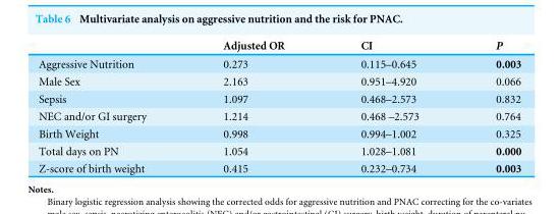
<table><thead><tr><td></td><td>Adjusted OR</td><td>CI</td><td>P</td></tr></thead><tbody><tr><td>Aggressive Nutrition</td><td>0.273</td><td>0.115–0.645</td><td>0.003</td></tr><tr><td>Male Sex</td><td>2.163</td><td>0.951–4.920</td><td>0.066</td></tr><tr><td>Sepsis</td><td>1.097</td><td>0.468–2.573</td><td>0.832</td></tr><tr><td>NEC and/or GI surgery</td><td>1.214</td><td>0.468 –2.573</td><td>0.764</td></tr><tr><td>Birth Weight</td><td>0.998</td><td>0.994–1.002</td><td>0.325</td></tr><tr><td>Total days on PN</td><td>1.054</td><td>1.028–1.081</td><td>0.000</td></tr><tr><td>Z-score of birth weight</td><td>0.415</td><td>0.232–0.734</td><td>0.003</td></tr></tbody></table>